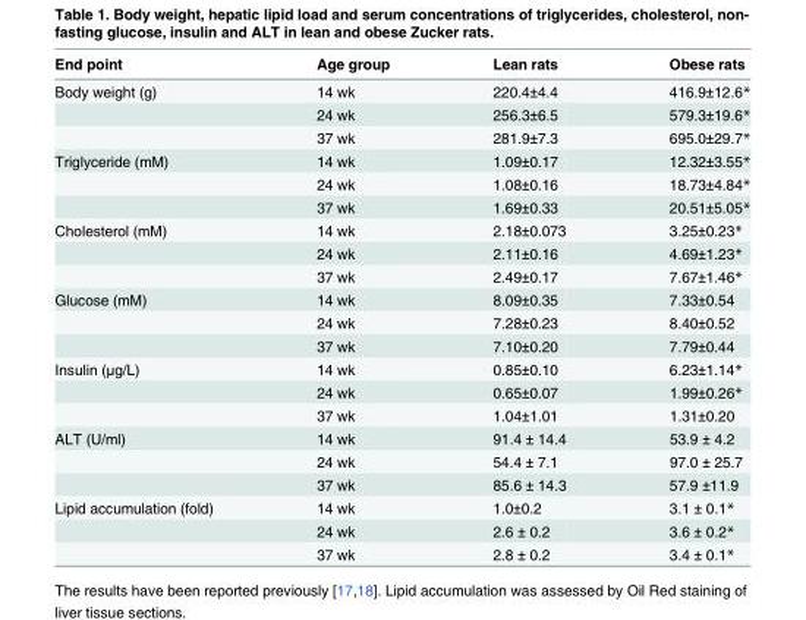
<table><thead><tr><td>End point</td><td>Age group</td><td>Lean rats</td><td>Obese rats</td></tr></thead><tbody><tr><td rowspan="3">Body weight (g)</td><td>14 wk</td><td>220.4±4.4</td><td>416.9±12.6*</td></tr><tr><td>24 wk</td><td>256.3±6.5</td><td>579.3±19.6*</td></tr><tr><td>37 wk</td><td>281.9±7.3</td><td>695.0±29.7*</td></tr><tr><td rowspan="3">Triglyceride (mM)</td><td>14 wk</td><td>1.09±0.17</td><td>12.32±3.55*</td></tr><tr><td>24 wk</td><td>1.08±0.16</td><td>18.73±4.84*</td></tr><tr><td>37 wk</td><td>1.69±0.33</td><td>20.51±5.05*</td></tr><tr><td rowspan="3">Cholesterol (mM)</td><td>14 wk</td><td>2.18±0.073</td><td>3.25±0.23*</td></tr><tr><td>24 wk</td><td>2.11±0.16</td><td>4.69±1.23*</td></tr><tr><td>37 wk</td><td>2.49±0.17</td><td>7.67±1.46*</td></tr><tr><td rowspan="3">Glucose (mM)</td><td>14 wk</td><td>8.09±0.35</td><td>7.33±0.54</td></tr><tr><td>24 wk</td><td>7.28±0.23</td><td>8.40±0.52</td></tr><tr><td>37 wk</td><td>7.10±0.20</td><td>7.79±0.44</td></tr><tr><td rowspan="3">Insulin (μg/L)</td><td>14 wk</td><td>0.85±0.10</td><td>6.23±1.14*</td></tr><tr><td>24 wk</td><td>0.65±0.07</td><td>1.99±0.26*</td></tr><tr><td>37 wk</td><td>1.04±1.01</td><td>1.31±0.20</td></tr><tr><td rowspan="3">ALT (U/ml)</td><td>14 wk</td><td>91.4 ± 14.4</td><td>53.9 ± 4.2</td></tr><tr><td>24 wk</td><td>54.4 ± 7.1</td><td>97.0 ± 25.7</td></tr><tr><td>37 wk</td><td>85.6 ± 14.3</td><td>57.9 ±11.9</td></tr><tr><td rowspan="3">Lipid accumulation (fold)</td><td>14 wk</td><td>1.0±0.2</td><td>3.1 ± 0.1*</td></tr><tr><td>24 wk</td><td>2.6 ± 0.2</td><td>3.6 ± 0.2*</td></tr><tr><td>37 wk</td><td>2.8 ± 0.2</td><td>3.4 ± 0.1*</td></tr></tbody></table>